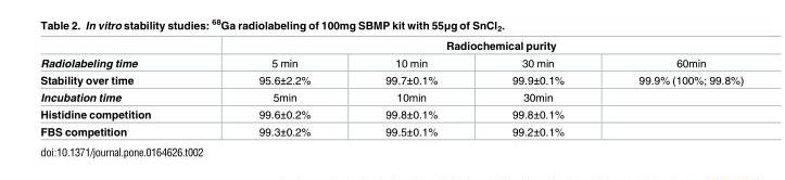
<table><thead><tr><td rowspan="2">Radiolabeling time</td><td colspan="4">Radiochemical purity</td></tr><tr><td>5 min</td><td>10 min</td><td>30 min</td><td>60min</td></tr></thead><tbody><tr><td>Stability over time</td><td>95.6±2.2%</td><td>99.7±0.1%</td><td>99.9±0.1%</td><td>99.9% (100%; 99.8%)</td></tr><tr><td>Incubation time</td><td>5min</td><td>10min</td><td>30min</td><td></td></tr><tr><td>Histidine competition</td><td>99.6±0.2%</td><td>99.8±0.1%</td><td>99.8±0.1%</td><td></td></tr><tr><td>FBS competition</td><td>99.3±0.2%</td><td>99.5±0.1%</td><td>99.2±0.1%</td><td></td></tr></tbody></table>